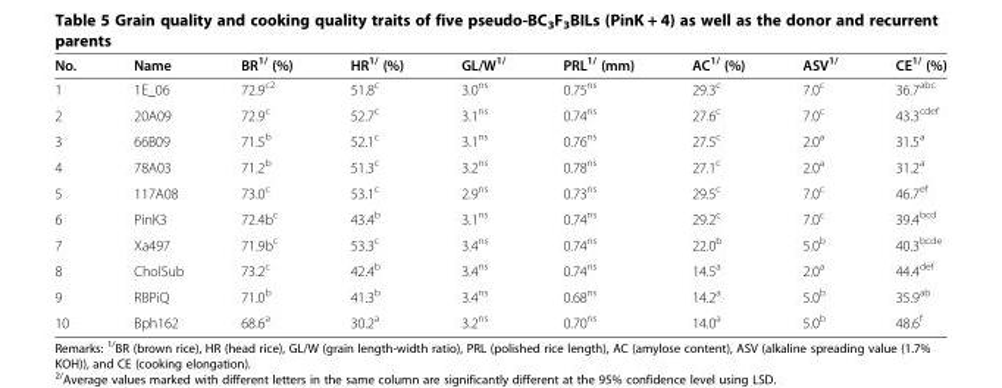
<table><thead><tr><td>No.</td><td>Name</td><td>BR<sup>1/</sup> (%)</td><td>HR<sup>1/</sup> (%)</td><td>GL/W<sup>1/</sup></td><td>PRL<sup>1/</sup> (mm)</td><td>AC<sup>1/</sup> (%)</td><td>ASV<sup>1/</sup></td><td>CE<sup>1/</sup> (%)</td></tr></thead><tbody><tr><td>1</td><td>1E_06</td><td>72.9<sup>c2</sup></td><td>51.8<sup>c</sup></td><td>3.0<sup>ns</sup></td><td>0.75<sup>ns</sup></td><td>29.3<sup>c</sup></td><td>7.0<sup>c</sup></td><td>36.7<sup>abc</sup></td></tr><tr><td>2</td><td>20A09</td><td>72.9<sup>c</sup></td><td>52.7<sup>c</sup></td><td>3.1<sup>ns</sup></td><td>0.74<sup>ns</sup></td><td>27.6<sup>c</sup></td><td>7.0<sup>c</sup></td><td>43.3<sup>cdef</sup></td></tr><tr><td>3</td><td>66B09</td><td>71.5<sup>b</sup></td><td>52.1<sup>c</sup></td><td>3.1<sup>ns</sup></td><td>0.76<sup>ns</sup></td><td>27.5<sup>c</sup></td><td>2.0<sup>a</sup></td><td>31.5<sup>a</sup></td></tr><tr><td>4</td><td>78A03</td><td>71.2<sup>b</sup></td><td>51.3<sup>c</sup></td><td>3.2<sup>ns</sup></td><td>0.78<sup>ns</sup></td><td>27.1<sup>c</sup></td><td>2.0<sup>a</sup></td><td>31.2<sup>a</sup></td></tr><tr><td>5</td><td>117A08</td><td>73.0<sup>c</sup></td><td>53.1<sup>c</sup></td><td>2.9<sup>ns</sup></td><td>0.73<sup>ns</sup></td><td>29.5<sup>c</sup></td><td>7.0<sup>c</sup></td><td>46.7<sup>ef</sup></td></tr><tr><td>6</td><td>PinK3</td><td>72.4b<sup>c</sup></td><td>43.4<sup>b</sup></td><td>3.1<sup>ns</sup></td><td>0.74<sup>ns</sup></td><td>29.2<sup>c</sup></td><td>7.0<sup>c</sup></td><td>39.4<sup>bcd</sup></td></tr><tr><td>7</td><td>Xa497</td><td>71.9b<sup>c</sup></td><td>53.3<sup>c</sup></td><td>3.4<sup>ns</sup></td><td>0.74<sup>ns</sup></td><td>22.0<sup>b</sup></td><td>5.0<sup>b</sup></td><td>40.3<sup>bcde</sup></td></tr><tr><td>8</td><td>CholSub</td><td>73.2<sup>c</sup></td><td>42.4<sup>b</sup></td><td>3.4<sup>ns</sup></td><td>0.74<sup>ns</sup></td><td>14.5<sup>a</sup></td><td>2.0<sup>a</sup></td><td>44.4<sup>def</sup></td></tr><tr><td>9</td><td>RBPiQ</td><td>71.0<sup>b</sup></td><td>41.3<sup>b</sup></td><td>3.4<sup>ns</sup></td><td>0.68<sup>ns</sup></td><td>14.2<sup>a</sup></td><td>5.0<sup>b</sup></td><td>35.9<sup>ab</sup></td></tr><tr><td>10</td><td>Bph162</td><td>68.6<sup>a</sup></td><td>30.2<sup>a</sup></td><td>3.2<sup>ns</sup></td><td>0.70<sup>ns</sup></td><td>14.0<sup>a</sup></td><td>5.0<sup>b</sup></td><td>48.6<sup>f</sup></td></tr></tbody></table>